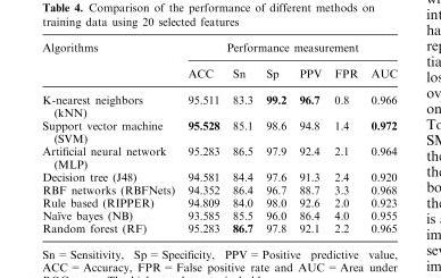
<table><thead><tr><td rowspan="2">Algorithms</td><td colspan="6">Performance measurement</td></tr><tr><td>ACC</td><td>Sn</td><td>Sp</td><td>PPV</td><td>FPR</td><td>AUC</td></tr></thead><tbody><tr><td>K-nearest neighbors (kNN)</td><td>95.511</td><td>83.3</td><td>99.2</td><td>96.7</td><td>0.8</td><td>0.966</td></tr><tr><td>Support vector machine (SVM)</td><td>95.528</td><td>85.1</td><td>98.6</td><td>94.8</td><td>1.4</td><td>0.972</td></tr><tr><td>Artificial neural network (MLP)</td><td>95.283</td><td>86.5</td><td>97.9</td><td>92.4</td><td>2.1</td><td>0.964</td></tr><tr><td>Decision tree (J48)</td><td>94.581</td><td>84.4</td><td>97.6</td><td>91.3</td><td>2.4</td><td>0.920</td></tr><tr><td>RBF networks (RBFNets)</td><td>94.352</td><td>86.4</td><td>96.7</td><td>88.7</td><td>3.3</td><td>0.968</td></tr><tr><td>Rule based (RIPPER)</td><td>94.809</td><td>84.0</td><td>98.0</td><td>92.6</td><td>2.0</td><td>0.923</td></tr><tr><td>Naı¨ve bayes (NB)</td><td>93.585</td><td>85.5</td><td>96.0</td><td>86.4</td><td>4.0</td><td>0.955</td></tr><tr><td>Random forest (RF)</td><td>95.283</td><td>86.7</td><td>97.8</td><td>92.1</td><td>2.2</td><td>0.965</td></tr></tbody></table>